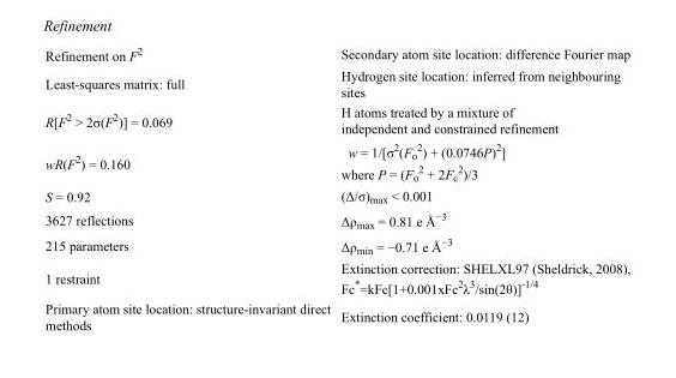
<table><tbody><tr><td>Refinement on F<sup>2</sup></td><td>Secondary atom site location: difference Fourier map</td></tr><tr><td>Least-squares matrix: full</td><td>Hydrogen site location: inferred from neighbouring sites</td></tr><tr><td>R[F<sup>2</sup> &gt; 2σ(F<sup>2</sup>)] = 0.069</td><td>H atoms treated by a mixture of independent and constrained refinement</td></tr><tr><td>wR(F<sup>2</sup>) = 0.160</td><td>w = 1/[σ<sup>2</sup>(F<sub>o</sub> <sup>2</sup>) + (0.0746P)<sup>2</sup>] where P = (F<sub>o</sub> <sup>2</sup> + 2F<sub>c</sub> <sup>2</sup>)/3</td></tr><tr><td>S = 0.92</td><td>(Δ/σ)<sub>max</sub> &lt; 0.001</td></tr><tr><td>3627 reflections</td><td>Δρ<sub>max</sub> = 0.81 e Å<sup>−3</sup></td></tr><tr><td>215 parameters</td><td>Δρ<sub>min</sub> = −0.71 e Å<sup>−3</sup></td></tr><tr><td>1 restraint</td><td>Extinction correction: SHELXL97 (Sheldrick, 2008), Fc*=kFc[1+0.001xFc<sup>2</sup>λ<sup>3</sup>/sin(2θ)]<sup>-1/4</sup></td></tr><tr><td>Primary atom site location: structure-invariant direct methods</td><td>Extinction coefficient: 0.0119 (12)</td></tr></tbody></table>